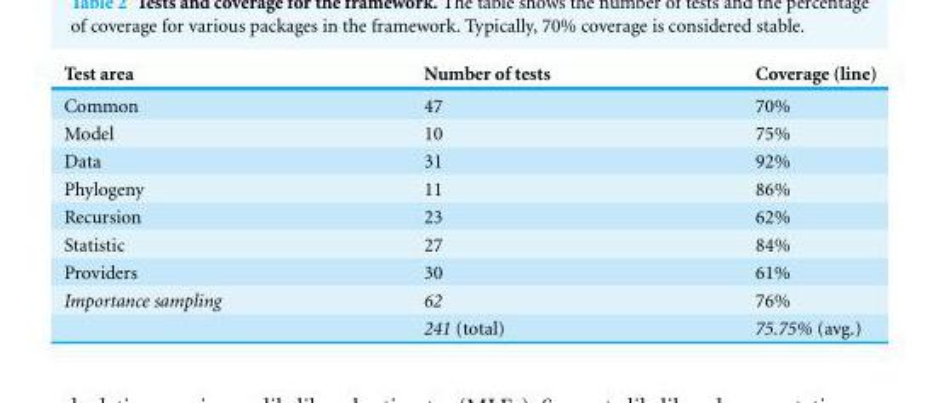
<table><thead><tr><td>Test area</td><td>Number of tests</td><td>Coverage (line)</td></tr></thead><tbody><tr><td>Common</td><td>47</td><td>70%</td></tr><tr><td>Model</td><td>10</td><td>75%</td></tr><tr><td>Data</td><td>31</td><td>92%</td></tr><tr><td>Phylogeny</td><td>11</td><td>86%</td></tr><tr><td>Recursion</td><td>23</td><td>62%</td></tr><tr><td>Statistic</td><td>27</td><td>84%</td></tr><tr><td>Providers</td><td>30</td><td>61%</td></tr><tr><td rowspan="2">Importance sampling</td><td>62</td><td>76%</td></tr><tr><td>241 (total)</td><td>75.75% (avg.)</td></tr></tbody></table>